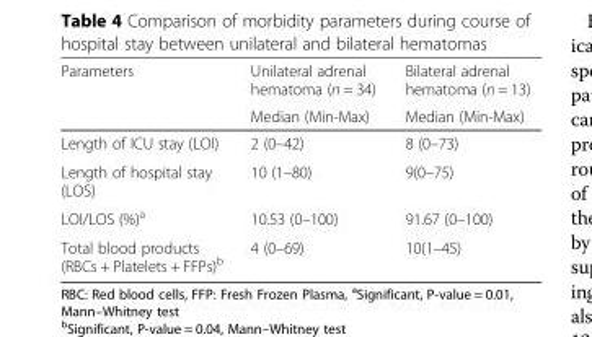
<table><thead><tr><td rowspan="2">Parameters</td><td rowspan="2">Unilateral adrenal hematoma (n = 34) Median (Min-Max)</td><td rowspan="2">Bilateral adrenal hematoma (n = 13) Median (Min-Max)</td></tr><tr></tr></thead><tbody><tr><td>Length of ICU stay (LOI)</td><td>2 (0–42)</td><td>8 (0–73)</td></tr><tr><td>Length of hospital stay (LOS)</td><td>10 (1–80)</td><td>9(0–75)</td></tr><tr><td>LOI/LOS (%)<sup>a</sup></td><td>10.53 (0–100)</td><td>91.67 (0–100)</td></tr><tr><td>Total blood products (RBCs + Platelets + FFPs)<sup>b</sup></td><td>4 (0–69)</td><td>10(1–45)</td></tr></tbody></table>